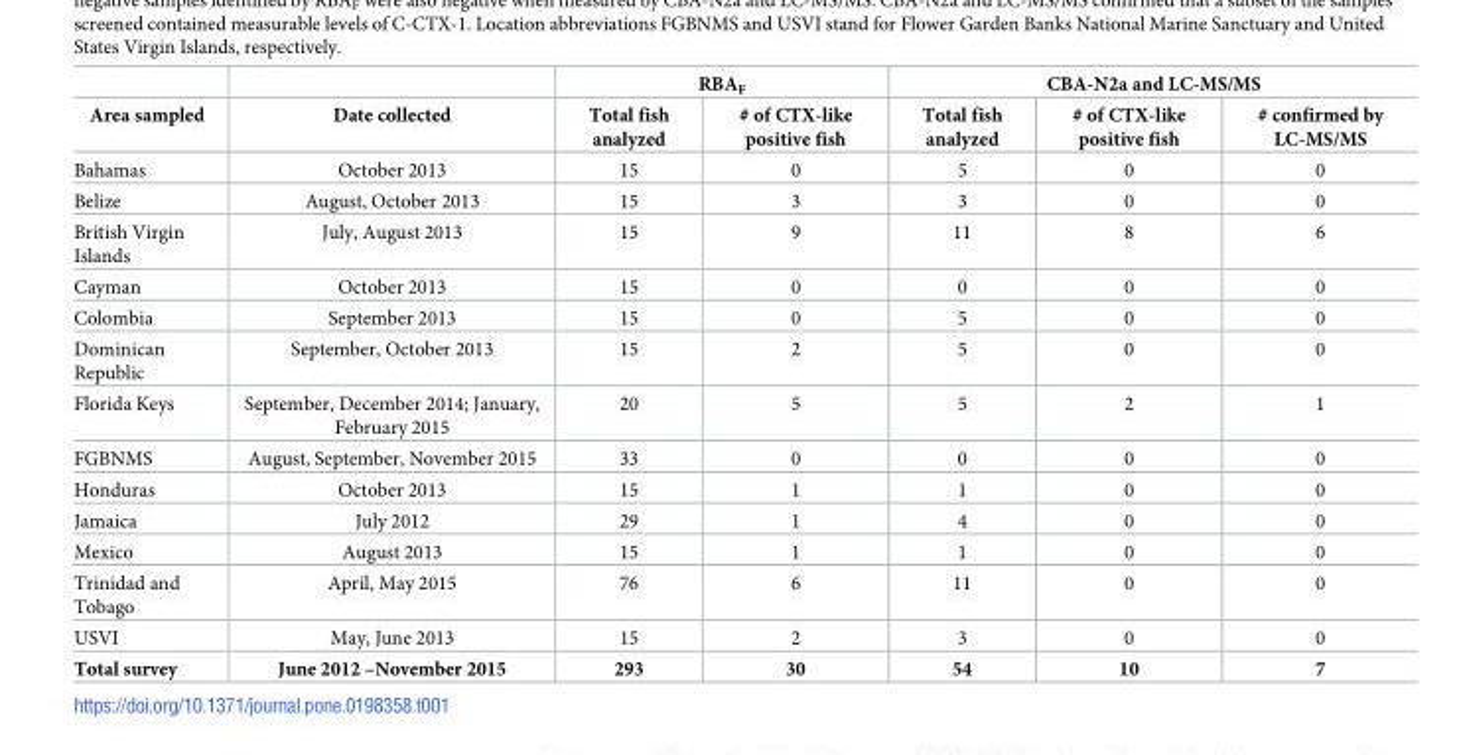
<table><thead><tr><td rowspan="2">Area sampled</td><td rowspan="2">Date collected</td><td colspan="2">RBA<sub>F</sub></td><td colspan="3">CBA-N2a and LC-MS/MS</td></tr><tr><td>Total fish analyzed</td><td># of CTX-like positive fish</td><td>Total fish analyzed</td><td># of CTX-like positive fish</td><td># confirmed by LC-MS/MS</td></tr></thead><tbody><tr><td>Bahamas</td><td>October 2013</td><td>15</td><td>0</td><td>5</td><td>0</td><td>0</td></tr><tr><td>Belize</td><td>August, October 2013</td><td>15</td><td>3</td><td>3</td><td>0</td><td>0</td></tr><tr><td>British Virgin Islands</td><td>July, August 2013</td><td>15</td><td>9</td><td>11</td><td>8</td><td>6</td></tr><tr><td>Cayman</td><td>October 2013</td><td>15</td><td>0</td><td>0</td><td>0</td><td>0</td></tr><tr><td>Colombia</td><td>September 2013</td><td>15</td><td>0</td><td>5</td><td>0</td><td>0</td></tr><tr><td>Dominican Republic</td><td>September, October 2013</td><td>15</td><td>2</td><td>5</td><td>0</td><td>0</td></tr><tr><td>Florida Keys</td><td>September, December 2014; January, February 2015</td><td>20</td><td>5</td><td>5</td><td>2</td><td>1</td></tr><tr><td>FGBNMS</td><td>August, September, November 2015</td><td>33</td><td>0</td><td>0</td><td>0</td><td>0</td></tr><tr><td>Honduras</td><td>October 2013</td><td>15</td><td>1</td><td>1</td><td>0</td><td>0</td></tr><tr><td>Jamaica</td><td>July 2012</td><td>29</td><td>1</td><td>4</td><td>0</td><td>0</td></tr><tr><td>Mexico</td><td>August 2013</td><td>15</td><td>1</td><td>1</td><td>0</td><td>0</td></tr><tr><td>Trinidad and Tobago</td><td>April, May 2015</td><td>76</td><td>6</td><td>11</td><td>0</td><td>0</td></tr><tr><td>USVI</td><td>May, June 2013</td><td>15</td><td>2</td><td>3</td><td>0</td><td>0</td></tr><tr><td>Total survey</td><td>June 2012 –November 2015</td><td>293</td><td>30</td><td>54</td><td>10</td><td>7</td></tr></tbody></table>